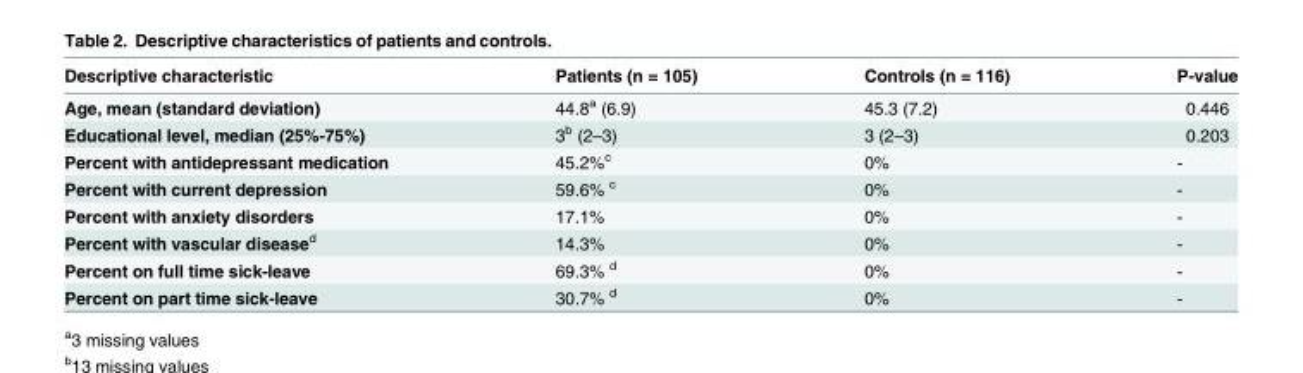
<table><thead><tr><td>Descriptive characteristic</td><td>Patients (n = 105)</td><td>Controls (n = 116)</td><td>P-value</td></tr></thead><tbody><tr><td>Age, mean (standard deviation)</td><td>44.8<sup>a</sup> (6.9)</td><td>45.3 (7.2)</td><td>0.446</td></tr><tr><td>Educational level, median (25%-75%)</td><td>3<sup>b</sup> (2–3)</td><td>3 (2–3)</td><td>0.203</td></tr><tr><td>Percent with antidepressant medication</td><td>45.2%<sup>c</sup></td><td>0%</td><td>-</td></tr><tr><td>Percent with current depression</td><td>59.6% <sup>c</sup></td><td>0%</td><td>-</td></tr><tr><td>Percent with anxiety disorders</td><td>17.1%</td><td>0%</td><td>-</td></tr><tr><td>Percent with vascular disease<sup>d</sup></td><td>14.3%</td><td>0%</td><td>-</td></tr><tr><td>Percent on full time sick-leave</td><td>69.3% <sup>d</sup></td><td>0%</td><td>-</td></tr><tr><td>Percent on part time sick-leave</td><td>30.7% <sup>d</sup></td><td>0%</td><td>-</td></tr></tbody></table>